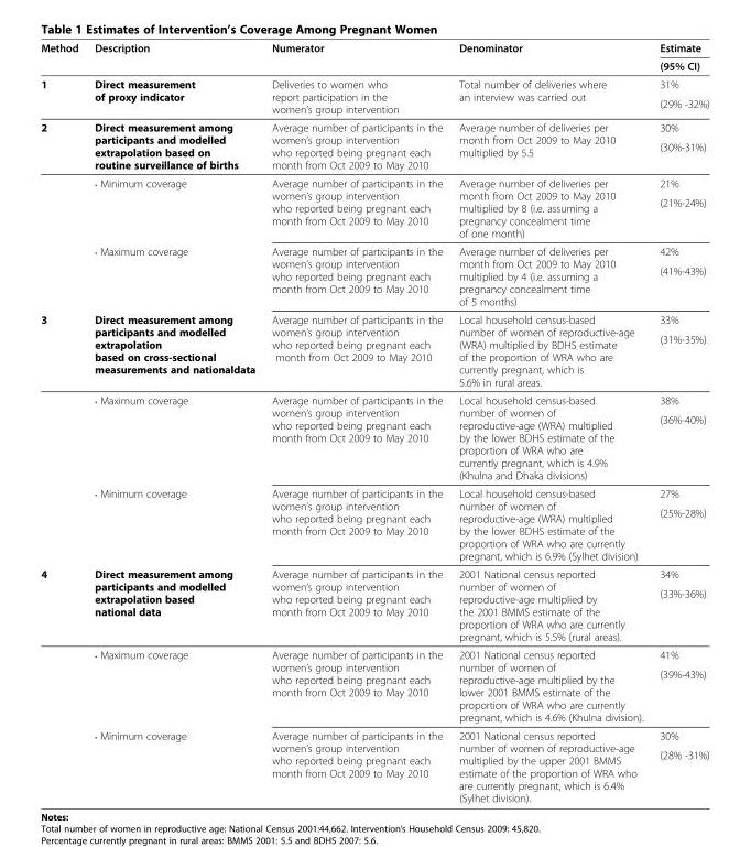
<table><thead><tr><td rowspan="2">Method</td><td rowspan="2">Description</td><td rowspan="2">Numerator</td><td rowspan="2">Denominator</td><td rowspan="2">Estimate (95% CI)</td></tr><tr></tr></thead><tbody><tr><td rowspan="2">1</td><td rowspan="2">Direct measurement of proxy indicator</td><td rowspan="2">Deliveries to women who report participation in the women’s group intervention</td><td rowspan="2">Total number of deliveries where an interview was carried out</td><td>31%</td></tr><tr><td>(29% -32%)</td></tr><tr><td rowspan="6">2</td><td rowspan="2">Direct measurement among participants and modelled extrapolation based on routine surveillance of births</td><td rowspan="2">Average number of participants in the women’s group intervention who reported being pregnant each month from Oct 2009 to May 2010</td><td rowspan="2">Average number of deliveries per month from Oct 2009 to May 2010 multiplied by 5.5</td><td>30%</td></tr><tr><td>(30%-31%)</td></tr><tr><td rowspan="2">• Minimum coverage</td><td rowspan="2">Average number of participants in the women’s group intervention who reported being pregnant each month from Oct 2009 to May 2010</td><td rowspan="2">Average number of deliveries per month from Oct 2009 to May 2010 multiplied by 8 (i.e. assuming a pregnancy concealment time of one month)</td><td>21%</td></tr><tr><td>(21%-24%)</td></tr><tr><td rowspan="2">• Maximum coverage</td><td rowspan="2">Average number of participants in the women’s group intervention who reported being pregnant each month from Oct 2009 to May 2010</td><td rowspan="2">Average number of deliveries per month from Oct 2009 to May 2010 multiplied by 4 (i.e. assuming a pregnancy concealment time of 5 months)</td><td>42%</td></tr><tr><td>(41%-43%)</td></tr><tr><td rowspan="6">3</td><td rowspan="2">Direct measurement among participants and modelled extrapolation based on cross-sectional measurements and nationaldata</td><td rowspan="2">Average number of participants in the women’s group intervention who reported being pregnant each month from Oct 2009 to May 2010</td><td rowspan="2">Local household census-based number of women of reproductive-age (WRA) multiplied by BDHS estimate of the proportion of WRA who are currently pregnant, which is 5.6% in rural areas.</td><td>33%</td></tr><tr><td>(31%-35%)</td></tr><tr><td rowspan="2">• Maximum coverage</td><td rowspan="2">Average number of participants in the women’s group intervention who reported being pregnant each month from Oct 2009 to May 2010</td><td rowspan="2">Local household census-based number of women of reproductive-age (WRA) multiplied by the lower BDHS estimate of the proportion of WRA who are currently pregnant, which is 4.9% (Khulna and Dhaka divisions)</td><td>38%</td></tr><tr><td>(36%-40%)</td></tr><tr><td rowspan="2">• Minimum coverage</td><td rowspan="2">Average number of participants in the women’s group intervention who reported being pregnant each month from Oct 2009 to May 2010</td><td rowspan="2">Local household census-based number of women of reproductive-age (WRA) multiplied by the lower BDHS estimate of the proportion of WRA who are currently pregnant, which is 6.9% (Sylhet division)</td><td>27%</td></tr><tr><td>(25%-28%)</td></tr><tr><td rowspan="6">4</td><td rowspan="2">Direct measurement among participants and modelled extrapolation based national data</td><td rowspan="2">Average number of participants in the women’s group intervention who reported being pregnant each month from Oct 2009 to May 2010</td><td rowspan="2">2001 National census reported number of women of reproductive-age multiplied by the 2001 BMMS estimate of the proportion of WRA who are currently pregnant, which is 5.5% (rural areas).</td><td>34%</td></tr><tr><td>(33%-36%)</td></tr><tr><td rowspan="2">• Maximum coverage</td><td rowspan="2">Average number of participants in the women’s group intervention who reported being pregnant each month from Oct 2009 to May 2010</td><td rowspan="2">2001 National census reported number of women of reproductive-age multiplied by the lower 2001 BMMS estimate of the proportion of WRA who are currently pregnant, which is 4.6% (Khulna division).</td><td>41%</td></tr><tr><td>(39%-43%)</td></tr><tr><td rowspan="2">• Minimum coverage</td><td rowspan="2">Average number of participants in the women’s group intervention who reported being pregnant each month from Oct 2009 to May 2010</td><td rowspan="2">2001 National census reported number of women of reproductive-age multiplied by the upper 2001 BMMS estimate of the proportion of WRA who are currently pregnant, which is 6.4% (Sylhet division).</td><td>30%</td></tr><tr><td>(28% -31%)</td></tr></tbody></table>